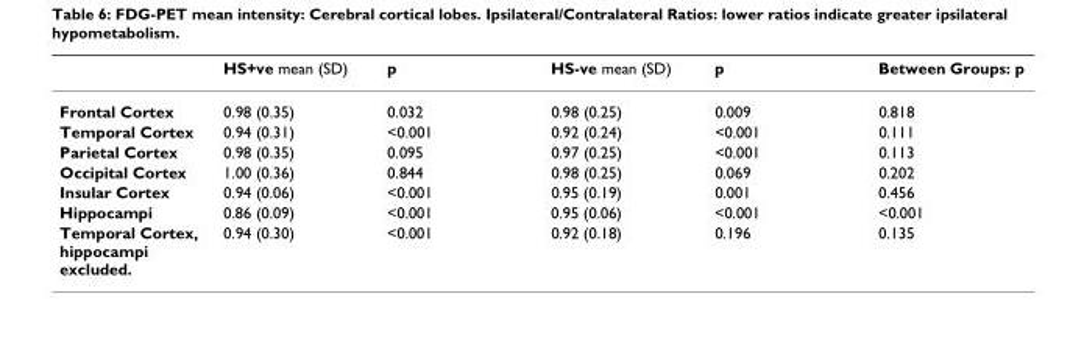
<table><thead><tr><td></td><td>HS+ve mean (SD)</td><td>p</td><td>HS-ve mean (SD)</td><td>p</td><td>Between Groups: p</td></tr></thead><tbody><tr><td>Frontal Cortex</td><td>0.98 (0.35)</td><td>0.032</td><td>0.98 (0.25)</td><td>0.009</td><td>0.818</td></tr><tr><td>Temporal Cortex</td><td>0.94 (0.31)</td><td>&lt;0.001</td><td>0.92 (0.24)</td><td>&lt;0.001</td><td>0.111</td></tr><tr><td>Parietal Cortex</td><td>0.98 (0.35)</td><td>0.095</td><td>0.97 (0.25)</td><td>&lt;0.001</td><td>0.113</td></tr><tr><td>Occipital Cortex</td><td>1.00 (0.36)</td><td>0.844</td><td>0.98 (0.25)</td><td>0.069</td><td>0.202</td></tr><tr><td>Insular Cortex</td><td>0.94 (0.06)</td><td>&lt;0.001</td><td>0.95 (0.19)</td><td>0.001</td><td>0.456</td></tr><tr><td>Hippocampi</td><td>0.86 (0.09)</td><td>&lt;0.001</td><td>0.95 (0.06)</td><td>&lt;0.001</td><td>&lt;0.001</td></tr><tr><td>Temporal Cortex, hippocampi excluded.</td><td>0.94 (0.30)</td><td>&lt;0.001</td><td>0.92 (0.18)</td><td>0.196</td><td>0.135</td></tr></tbody></table>